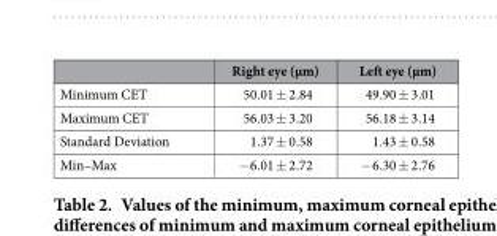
<table><thead><tr><td></td><td>Right eye (μm)</td><td>Left eye (μm)</td></tr></thead><tbody><tr><td>Minimum CET</td><td>50.01 ± 2.84</td><td>49.90 ± 3.01</td></tr><tr><td>Maximum CET</td><td>56.03 ± 3.20</td><td>56.18 ± 3.14</td></tr><tr><td>Standard Deviation</td><td>1.37 ± 0.58</td><td>1.43 ± 0.58</td></tr><tr><td>Min–Max</td><td>− 6.01 ± 2.72</td><td>− 6.30 ± 2.76</td></tr></tbody></table>